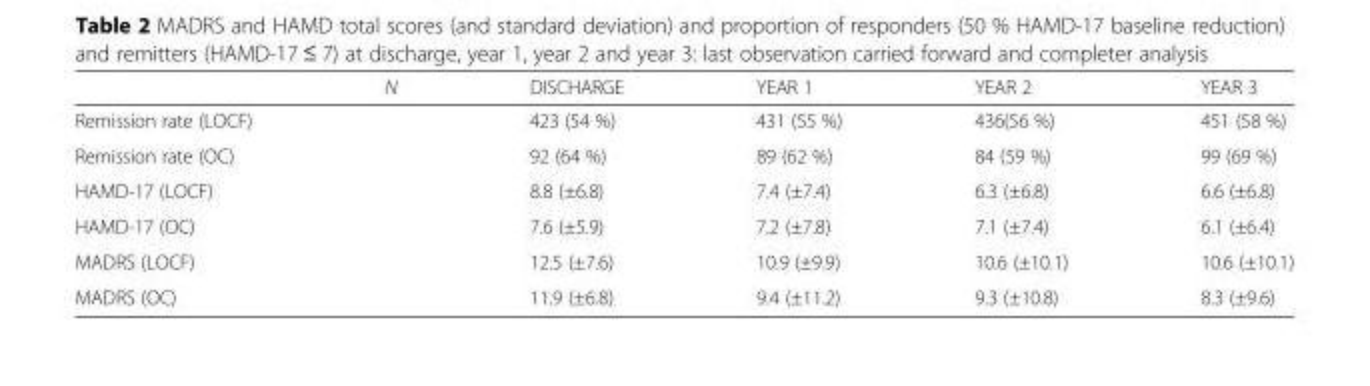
<table><thead><tr><td></td><td>N</td><td>DISCHARGE</td><td>YEAR 1</td><td>YEAR 2</td><td>YEAR 3</td></tr></thead><tbody><tr><td>Remission rate (LOCF)</td><td></td><td>423 (54 %)</td><td>431 (55 %)</td><td>436(56 %)</td><td>451 (58 %)</td></tr><tr><td>Remission rate (OC)</td><td></td><td>92 (64 %)</td><td>89 (62 %)</td><td>84 (59 %)</td><td>99 (69 %)</td></tr><tr><td>HAMD-17 (LOCF)</td><td></td><td>8.8 (±6.8)</td><td>7.4 (±7.4)</td><td>6.3 (±6.8)</td><td>6.6 (±6.8)</td></tr><tr><td>HAMD-17 (OC)</td><td></td><td>7.6 (±5.9)</td><td>7.2 (±7.8)</td><td>7.1 (±7.4)</td><td>6.1 (±6.4)</td></tr><tr><td>MADRS (LOCF)</td><td></td><td>12.5 (±7.6)</td><td>10.9 (±9.9)</td><td>10.6 (±10.1)</td><td>10.6 (±10.1)</td></tr><tr><td>MADRS (OC)</td><td></td><td>11.9 (±6.8)</td><td>9.4 (±11.2)</td><td>9.3 (±10.8)</td><td>8.3 (±9.6)</td></tr></tbody></table>